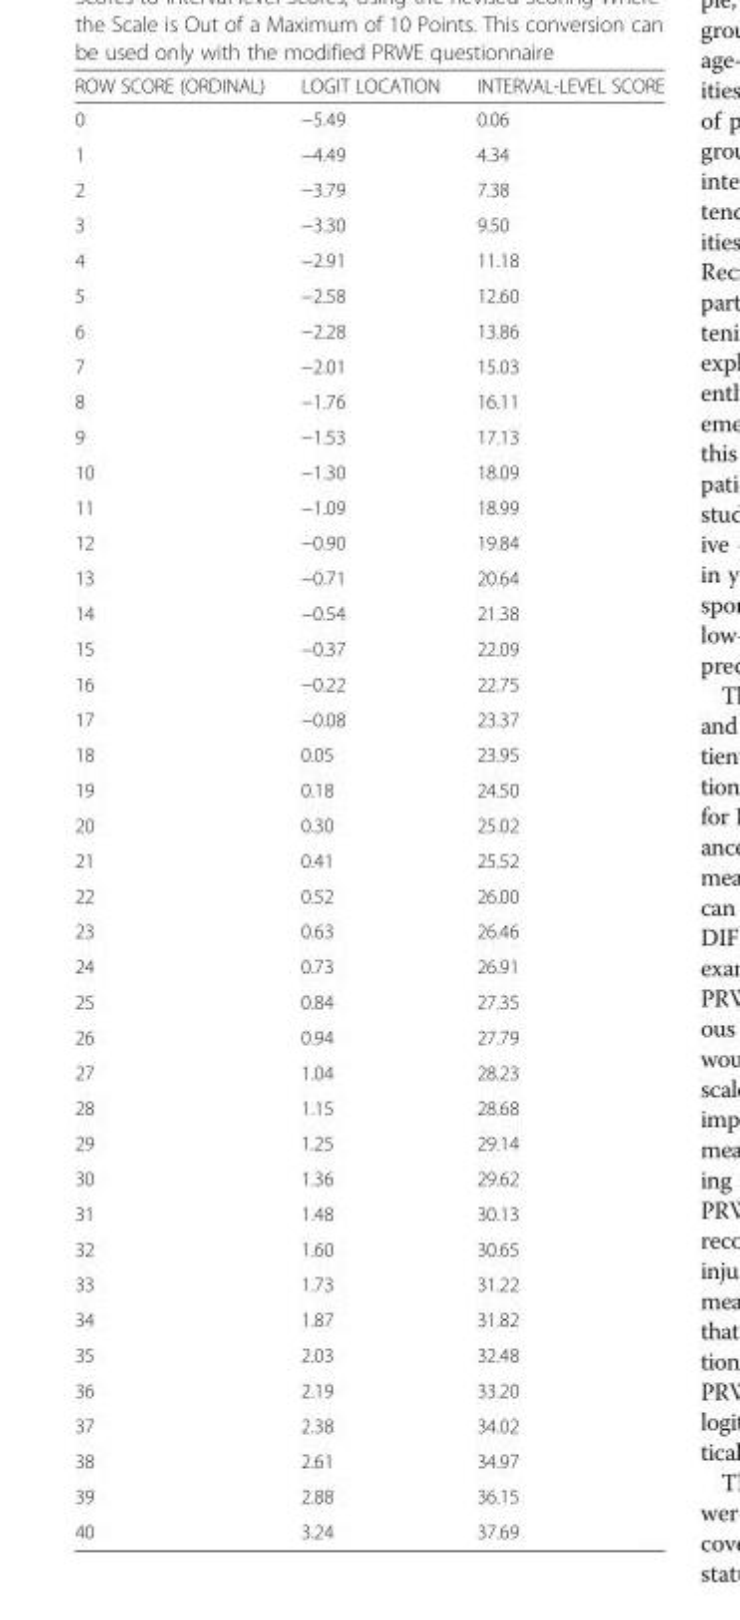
<table><thead><tr><td>ROW SCORE (ORDINAL)</td><td>LOGIT LOCATION</td><td>INTERVAL-LEVEL SCORE</td></tr></thead><tbody><tr><td>0</td><td>−5.49</td><td>0.06</td></tr><tr><td>1</td><td>−4.49</td><td>4.34</td></tr><tr><td>2</td><td>−3.79</td><td>7.38</td></tr><tr><td>3</td><td>−3.30</td><td>9.50</td></tr><tr><td>4</td><td>−2.91</td><td>11.18</td></tr><tr><td>5</td><td>−2.58</td><td>12.60</td></tr><tr><td>6</td><td>−2.28</td><td>13.86</td></tr><tr><td>7</td><td>−2.01</td><td>15.03</td></tr><tr><td>8</td><td>−1.76</td><td>16.11</td></tr><tr><td>9</td><td>−1.53</td><td>17.13</td></tr><tr><td>10</td><td>−1.30</td><td>18.09</td></tr><tr><td>11</td><td>−1.09</td><td>18.99</td></tr><tr><td>12</td><td>−0.90</td><td>19.84</td></tr><tr><td>13</td><td>−0.71</td><td>20.64</td></tr><tr><td>14</td><td>−0.54</td><td>21.38</td></tr><tr><td>15</td><td>−0.37</td><td>22.09</td></tr><tr><td>16</td><td>−0.22</td><td>22.75</td></tr><tr><td>17</td><td>−0.08</td><td>23.37</td></tr><tr><td>18</td><td>0.05</td><td>23.95</td></tr><tr><td>19</td><td>0.18</td><td>24.50</td></tr><tr><td>20</td><td>0.30</td><td>25.02</td></tr><tr><td>21</td><td>0.41</td><td>25.52</td></tr><tr><td>22</td><td>0.52</td><td>26.00</td></tr><tr><td>23</td><td>0.63</td><td>26.46</td></tr><tr><td>24</td><td>0.73</td><td>26.91</td></tr><tr><td>25</td><td>0.84</td><td>27.35</td></tr><tr><td>26</td><td>0.94</td><td>27.79</td></tr><tr><td>27</td><td>1.04</td><td>28.23</td></tr><tr><td>28</td><td>1.15</td><td>28.68</td></tr><tr><td>29</td><td>1.25</td><td>29.14</td></tr><tr><td>30</td><td>1.36</td><td>29.62</td></tr><tr><td>31</td><td>1.48</td><td>30.13</td></tr><tr><td>32</td><td>1.60</td><td>30.65</td></tr><tr><td>33</td><td>1.73</td><td>31.22</td></tr><tr><td>34</td><td>1.87</td><td>31.82</td></tr><tr><td>35</td><td>2.03</td><td>32.48</td></tr><tr><td>36</td><td>2.19</td><td>33.20</td></tr><tr><td>37</td><td>2.38</td><td>34.02</td></tr><tr><td>38</td><td>2.61</td><td>34.97</td></tr><tr><td>39</td><td>2.88</td><td>36.15</td></tr><tr><td>40</td><td>3.24</td><td>37.69</td></tr></tbody></table>